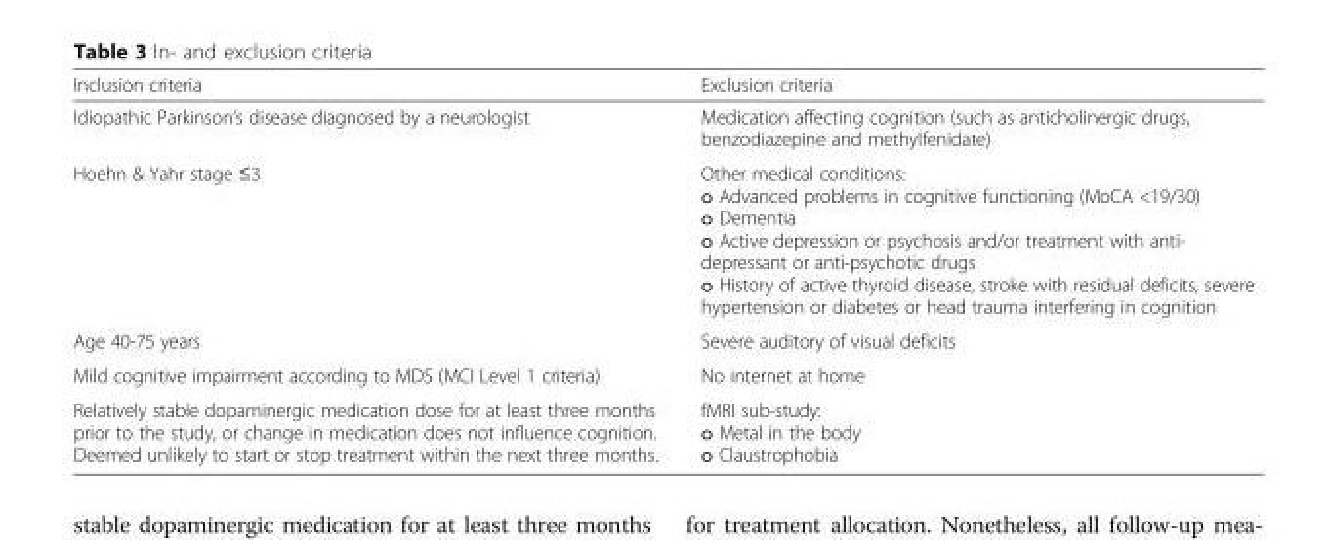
<table><thead><tr><td>Inclusion criteria</td><td>Exclusion criteria</td></tr></thead><tbody><tr><td>Idiopathic Parkinson’s disease diagnosed by a neurologist</td><td>Medication affecting cognition (such as anticholinergic drugs, benzodiazepine and methylfenidate)</td></tr><tr><td>Hoehn &amp; Yahr stage ≤3</td><td>Other medical conditions: o Advanced problems in cognitive functioning (MoCA &lt;19/30) o Dementia o Active depression or psychosis and/or treatment with anti- depressant or anti-psychotic drugs o History of active thyroid disease, stroke with residual deficits, severe hypertension or diabetes or head trauma interfering in cognition</td></tr><tr><td>Age 40-75 years</td><td>Severe auditory of visual deficits</td></tr><tr><td>Mild cognitive impairment according to MDS (MCI Level 1 criteria)</td><td>No internet at home</td></tr><tr><td>Relatively stable dopaminergic medication dose for at least three months prior to the study, or change in medication does not influence cognition. Deemed unlikely to start or stop treatment within the next three months.</td><td>fMRI sub-study: o Metal in the body o Claustrophobia</td></tr></tbody></table>